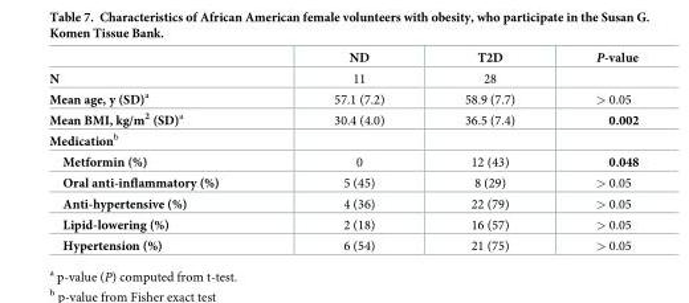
<table><thead><tr><td></td><td>ND</td><td>T2D</td><td>P-value</td></tr></thead><tbody><tr><td>N</td><td>11</td><td>28</td><td></td></tr><tr><td>Mean age, y (SD)<sup>a</sup></td><td>57.1 (7.2)</td><td>58.9 (7.7)</td><td>&gt; 0.05</td></tr><tr><td>Mean BMI, kg/m<sup>2</sup> (SD)<sup>a</sup></td><td>30.4 (4.0)</td><td>36.5 (7.4)</td><td>0.002</td></tr><tr><td colspan="4">Medication<sup>b</sup></td></tr><tr><td>Metformin (%)</td><td>0</td><td>12 (43)</td><td>0.048</td></tr><tr><td>Oral anti-inflammatory (%)</td><td>5 (45)</td><td>8 (29)</td><td>&gt; 0.05</td></tr><tr><td>Anti-hypertensive (%)</td><td>4 (36)</td><td>22 (79)</td><td>&gt; 0.05</td></tr><tr><td>Lipid-lowering (%)</td><td>2 (18)</td><td>16 (57)</td><td>&gt; 0.05</td></tr><tr><td>Hypertension (%)</td><td>6 (54)</td><td>21 (75)</td><td>&gt; 0.05</td></tr></tbody></table>